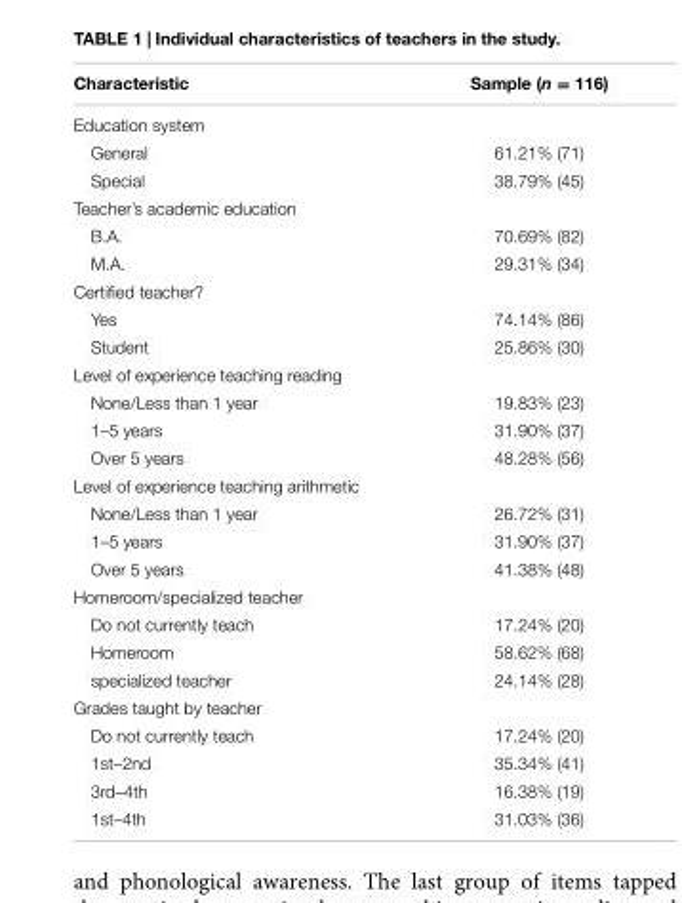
<table><thead><tr><td>Characteristic</td><td>Sample (n = 116)</td></tr></thead><tbody><tr><td colspan="2">Education system</td></tr><tr><td>General</td><td>61.21% (71)</td></tr><tr><td>Special</td><td>38.79% (45)</td></tr><tr><td colspan="2">Teacher’s academic education</td></tr><tr><td>B.A.</td><td>70.69% (82)</td></tr><tr><td>M.A.</td><td>29.31% (34)</td></tr><tr><td colspan="2">Certified teacher?</td></tr><tr><td>Yes</td><td>74.14% (86)</td></tr><tr><td>Student</td><td>25.86% (30)</td></tr><tr><td colspan="2">Level of experience teaching reading</td></tr><tr><td>None/Less than 1 year</td><td>19.83% (23)</td></tr><tr><td>1–5 years</td><td>31.90% (37)</td></tr><tr><td>Over 5 years</td><td>48.28% (56)</td></tr><tr><td colspan="2">Level of experience teaching arithmetic</td></tr><tr><td>None/Less than 1 year</td><td>26.72% (31)</td></tr><tr><td>1–5 years</td><td>31.90% (37)</td></tr><tr><td>Over 5 years</td><td>41.38% (48)</td></tr><tr><td colspan="2">Homeroom/specialized teacher</td></tr><tr><td>Do not currently teach</td><td>17.24% (20)</td></tr><tr><td>Homeroom</td><td>58.62% (68)</td></tr><tr><td>specialized teacher</td><td>24.14% (28)</td></tr><tr><td colspan="2">Grades taught by teacher</td></tr><tr><td>Do not currently teach</td><td>17.24% (20)</td></tr><tr><td>1st–2nd</td><td>35.34% (41)</td></tr><tr><td>3rd–4th</td><td>16.38% (19)</td></tr><tr><td>1st–4th</td><td>31.03% (36)</td></tr></tbody></table>